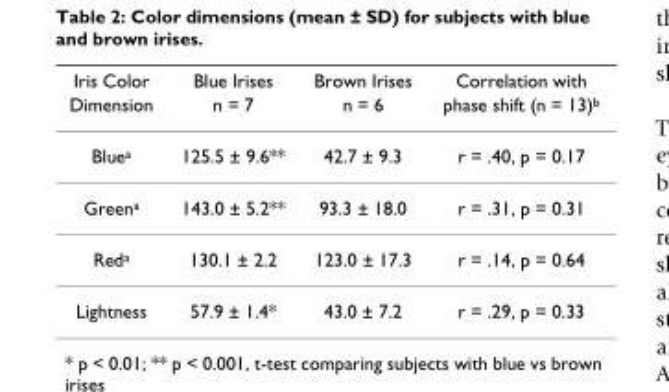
<table><thead><tr><td rowspan="2">Iris Color Dimension</td><td rowspan="2">Blue Irises n = 7</td><td rowspan="2">Brown Irises n = 6</td><td rowspan="2">Correlation with phase shift (n = 13)<sup>b</sup></td></tr><tr></tr></thead><tbody><tr><td>Blue<sup>a</sup></td><td>125.5 ± 9.6**</td><td>42.7 ± 9.3</td><td>r = .40, p = 0.17</td></tr><tr><td>Green<sup>a</sup></td><td>143.0 ± 5.2**</td><td>93.3 ± 18.0</td><td>r = .31, p = 0.31</td></tr><tr><td>Red<sup>a</sup></td><td>130.1 ± 2.2</td><td>123.0 ± 17.3</td><td>r = .14, p = 0.64</td></tr><tr><td>Lightness</td><td>57.9 ± 1.4*</td><td>43.0 ± 7.2</td><td>r = .29, p = 0.33</td></tr></tbody></table>